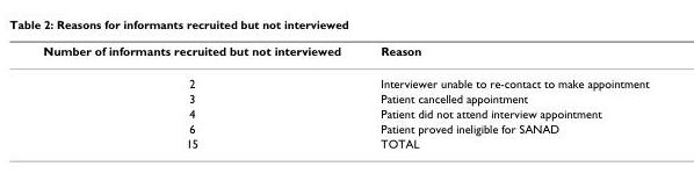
<table><thead><tr><td>Number of informants recruited but not interviewed</td><td>Reason</td></tr></thead><tbody><tr><td>2</td><td>Interviewer unable to re-contact to make appointment</td></tr><tr><td>3</td><td>Patient cancelled appointment</td></tr><tr><td>4</td><td>Patient did not attend interview appointment</td></tr><tr><td>6</td><td>Patient proved ineligible for SANAD</td></tr><tr><td>15</td><td>TOTAL</td></tr></tbody></table>